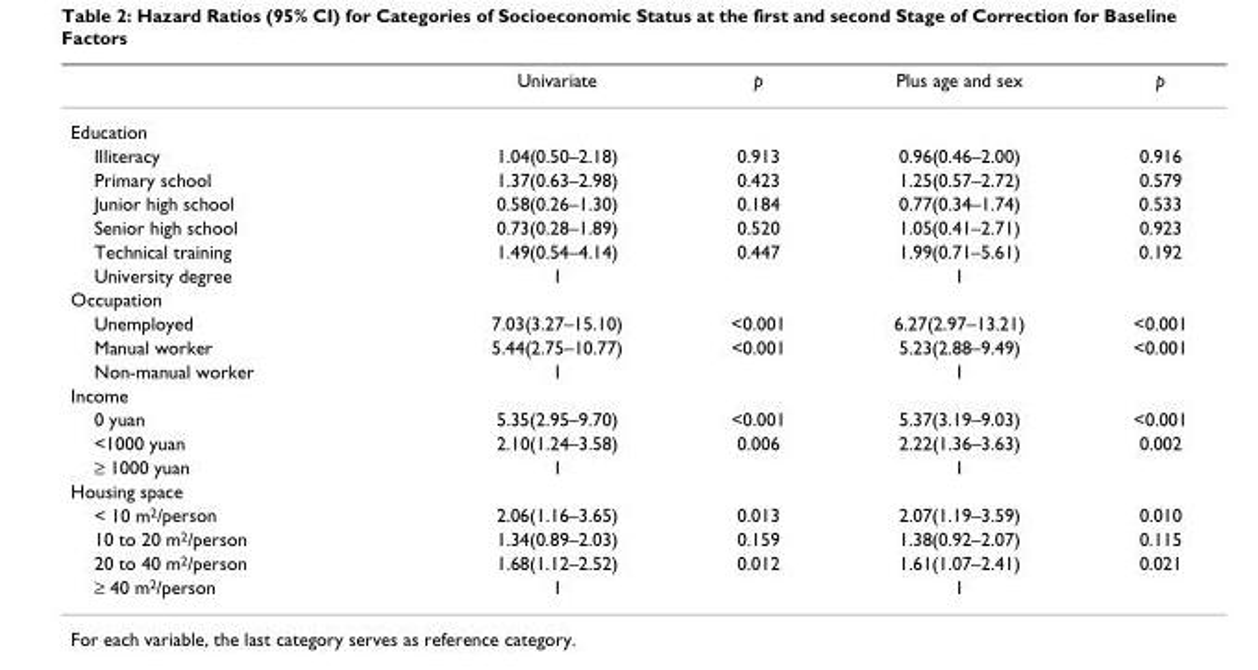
<table><thead><tr><td></td><td>Univariate</td><td>p</td><td>Plus age and sex</td><td>p</td></tr></thead><tbody><tr><td colspan="5">Education</td></tr><tr><td>Illiteracy</td><td>1.04(0.50–2.18)</td><td>0.913</td><td>0.96(0.46–2.00)</td><td>0.916</td></tr><tr><td>Primary school</td><td>1.37(0.63–2.98)</td><td>0.423</td><td>1.25(0.57–2.72)</td><td>0.579</td></tr><tr><td>Junior high school</td><td>0.58(0.26–1.30)</td><td>0.184</td><td>0.77(0.34–1.74)</td><td>0.533</td></tr><tr><td>Senior high school</td><td>0.73(0.28–1.89)</td><td>0.520</td><td>1.05(0.41–2.71)</td><td>0.923</td></tr><tr><td>Technical training</td><td>1.49(0.54–4.14)</td><td>0.447</td><td>1.99(0.71–5.61)</td><td>0.192</td></tr><tr><td>University degree</td><td>1</td><td></td><td>1</td><td></td></tr><tr><td colspan="5">Occupation</td></tr><tr><td>Unemployed</td><td>7.03(3.27–15.10)</td><td>&lt;0.001</td><td>6.27(2.97–13.21)</td><td>&lt;0.001</td></tr><tr><td>Manual worker</td><td>5.44(2.75–10.77)</td><td>&lt;0.001</td><td>5.23(2.88–9.49)</td><td>&lt;0.001</td></tr><tr><td>Non-manual worker</td><td>1</td><td></td><td>1</td><td></td></tr><tr><td colspan="5">Income</td></tr><tr><td>0 yuan</td><td>5.35(2.95–9.70)</td><td>&lt;0.001</td><td>5.37(3.19–9.03)</td><td>&lt;0.001</td></tr><tr><td>&lt;1000 yuan</td><td>2.10(1.24–3.58)</td><td>0.006</td><td>2.22(1.36–3.63)</td><td>0.002</td></tr><tr><td>≥ 1000 yuan</td><td>1</td><td></td><td>1</td><td></td></tr><tr><td colspan="5">Housing space</td></tr><tr><td>&lt; 10 m2/person</td><td>2.06(1.16–3.65)</td><td>0.013</td><td>2.07(1.19–3.59)</td><td>0.010</td></tr><tr><td>10 to 20 m2/person</td><td>1.34(0.89–2.03)</td><td>0.159</td><td>1.38(0.92–2.07)</td><td>0.115</td></tr><tr><td>20 to 40 m2/person</td><td>1.68(1.12–2.52)</td><td>0.012</td><td>1.61(1.07–2.41)</td><td>0.021</td></tr><tr><td>≥ 40 m2/person</td><td>1</td><td></td><td>1</td><td></td></tr></tbody></table>